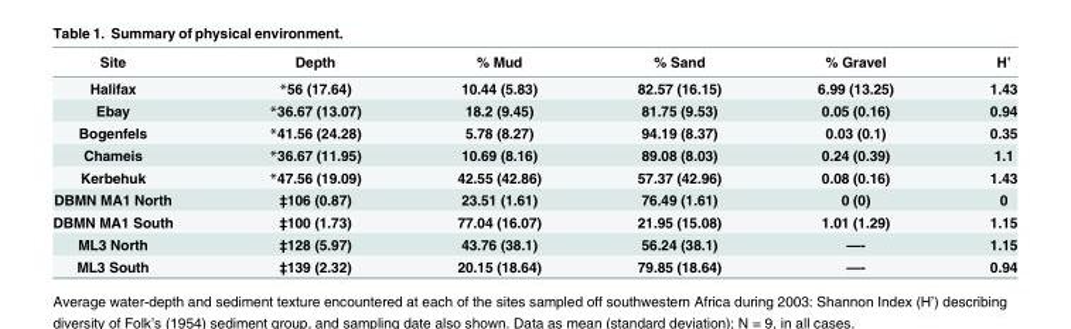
<table><thead><tr><td>Site</td><td>Depth</td><td>% Mud</td><td>% Sand</td><td>% Gravel</td><td>H’</td></tr></thead><tbody><tr><td>Halifax</td><td>*56 (17.64)</td><td>10.44 (5.83)</td><td>82.57 (16.15)</td><td>6.99 (13.25)</td><td>1.43</td></tr><tr><td>Ebay</td><td>*36.67 (13.07)</td><td>18.2 (9.45)</td><td>81.75 (9.53)</td><td>0.05 (0.16)</td><td>0.94</td></tr><tr><td>Bogenfels</td><td>*41.56 (24.28)</td><td>5.78 (8.27)</td><td>94.19 (8.37)</td><td>0.03 (0.1)</td><td>0.35</td></tr><tr><td>Chameis</td><td>*36.67 (11.95)</td><td>10.69 (8.16)</td><td>89.08 (8.03)</td><td>0.24 (0.39)</td><td>1.1</td></tr><tr><td>Kerbehuk</td><td>*47.56 (19.09)</td><td>42.55 (42.86)</td><td>57.37 (42.96)</td><td>0.08 (0.16)</td><td>1.43</td></tr><tr><td>DBMN MA1 North</td><td>‡106 (0.87)</td><td>23.51 (1.61)</td><td>76.49 (1.61)</td><td>0 (0)</td><td>0</td></tr><tr><td>DBMN MA1 South</td><td>‡100 (1.73)</td><td>77.04 (16.07)</td><td>21.95 (15.08)</td><td>1.01 (1.29)</td><td>1.15</td></tr><tr><td>ML3 North</td><td>‡128 (5.97)</td><td>43.76 (38.1)</td><td>56.24 (38.1)</td><td>—-</td><td>1.15</td></tr><tr><td>ML3 South</td><td>‡139 (2.32)</td><td>20.15 (18.64)</td><td>79.85 (18.64)</td><td>—-</td><td>0.94</td></tr></tbody></table>